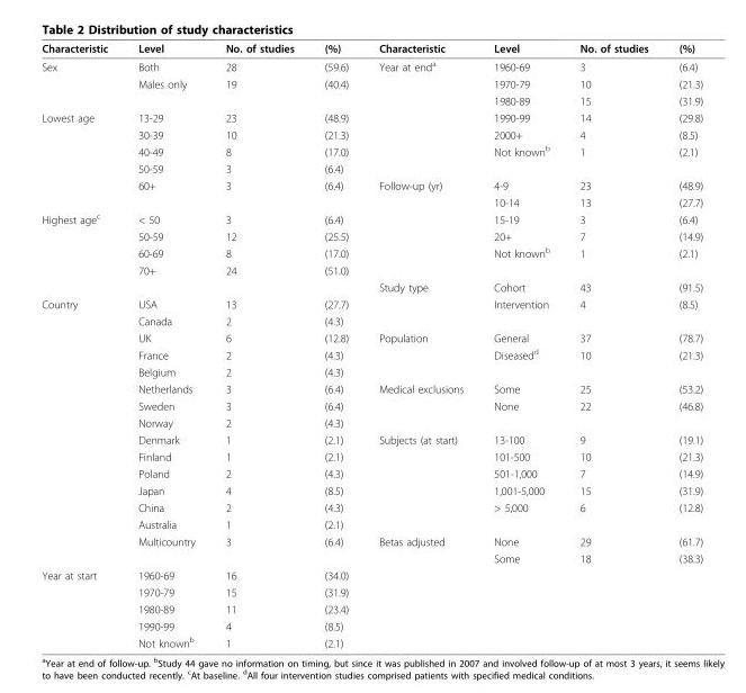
<table><thead><tr><td>Characteristic</td><td>Level</td><td>No. of studies</td><td>(%)</td><td>Characteristic</td><td>Level</td><td>No. of studies</td><td>(%)</td></tr></thead><tbody><tr><td rowspan="3">Sex</td><td>Both</td><td>28</td><td>(59.6)</td><td>Year at end<sup>a</sup></td><td>1960-69</td><td>3</td><td>(6.4)</td></tr><tr><td>Males only</td><td>19</td><td>(40.4)</td><td></td><td>1970-79</td><td>10</td><td>(21.3)</td></tr><tr><td></td><td></td><td></td><td></td><td>1980-89</td><td>15</td><td>(31.9)</td></tr><tr><td rowspan="6">Lowest age</td><td>13-29</td><td>23</td><td>(48.9)</td><td></td><td>1990-99</td><td>14</td><td>(29.8)</td></tr><tr><td>30-39</td><td>10</td><td>(21.3)</td><td></td><td>2000+</td><td>4</td><td>(8.5)</td></tr><tr><td>40-49</td><td>8</td><td>(17.0)</td><td></td><td>Not known<sup>b</sup></td><td>1</td><td>(2.1)</td></tr><tr><td>50-59</td><td>3</td><td>(6.4)</td><td></td><td></td><td></td><td></td></tr><tr><td>60+</td><td>3</td><td>(6.4)</td><td>Follow-up (yr)</td><td>4-9</td><td>23</td><td>(48.9)</td></tr><tr><td></td><td></td><td></td><td></td><td>10-14</td><td>13</td><td>(27.7)</td></tr><tr><td rowspan="5">Highest age<sup>c</sup></td><td>&lt; 50</td><td>3</td><td>(6.4)</td><td></td><td>15-19</td><td>3</td><td>(6.4)</td></tr><tr><td>50-59</td><td>12</td><td>(25.5)</td><td></td><td>20+</td><td>7</td><td>(14.9)</td></tr><tr><td>60-69</td><td>8</td><td>(17.0)</td><td></td><td>Not known<sup>b</sup></td><td>1</td><td>(2.1)</td></tr><tr><td>70+</td><td>24</td><td>(51.0)</td><td></td><td></td><td></td><td></td></tr><tr><td></td><td></td><td></td><td>Study type</td><td>Cohort</td><td>43</td><td>(91.5)</td></tr><tr><td rowspan="16">Country</td><td>USA</td><td>13</td><td>(27.7)</td><td></td><td>Intervention</td><td>4</td><td>(8.5)</td></tr><tr><td>Canada</td><td>2</td><td>(4.3)</td><td></td><td></td><td></td><td></td></tr><tr><td>UK</td><td>6</td><td>(12.8)</td><td>Population</td><td>General</td><td>37</td><td>(78.7)</td></tr><tr><td>France</td><td>2</td><td>(4.3)</td><td></td><td>Diseased<sup>d</sup></td><td>10</td><td>(21.3)</td></tr><tr><td>Belgium</td><td>2</td><td>(4.3)</td><td></td><td></td><td></td><td></td></tr><tr><td>Netherlands</td><td>3</td><td>(6.4)</td><td>Medical exclusions</td><td>Some</td><td>25</td><td>(53.2)</td></tr><tr><td>Sweden</td><td>3</td><td>(6.4)</td><td></td><td>None</td><td>22</td><td>(46.8)</td></tr><tr><td>Norway</td><td>2</td><td>(4.3)</td><td></td><td></td><td></td><td></td></tr><tr><td>Denmark</td><td>1</td><td>(2.1)</td><td>Subjects (at start)</td><td>13-100</td><td>9</td><td>(19.1)</td></tr><tr><td>Finland</td><td>1</td><td>(2.1)</td><td></td><td>101-500</td><td>10</td><td>(21.3)</td></tr><tr><td>Poland</td><td>2</td><td>(4.3)</td><td></td><td>501-1,000</td><td>7</td><td>(14.9)</td></tr><tr><td>Japan</td><td>4</td><td>(8.5)</td><td></td><td>1,001-5,000</td><td>15</td><td>(31.9)</td></tr><tr><td>China</td><td>2</td><td>(4.3)</td><td></td><td>&gt; 5,000</td><td>6</td><td>(12.8)</td></tr><tr><td>Australia</td><td>1</td><td>(2.1)</td><td></td><td></td><td></td><td></td></tr><tr><td>Multicountry</td><td>3</td><td>(6.4)</td><td>Betas adjusted</td><td>None</td><td>29</td><td>(61.7)</td></tr><tr><td></td><td></td><td></td><td></td><td>Some</td><td>18</td><td>(38.3)</td></tr><tr><td rowspan="5">Year at start</td><td>1960-69</td><td>16</td><td>(34.0)</td><td></td><td></td><td></td><td></td></tr><tr><td>1970-79</td><td>15</td><td>(31.9)</td><td></td><td></td><td></td><td></td></tr><tr><td>1980-89</td><td>11</td><td>(23.4)</td><td></td><td></td><td></td><td></td></tr><tr><td>1990-99</td><td>4</td><td>(8.5)</td><td></td><td></td><td></td><td></td></tr><tr><td>Not known<sup>b</sup></td><td>1</td><td>(2.1)</td><td></td><td></td><td></td><td></td></tr></tbody></table>